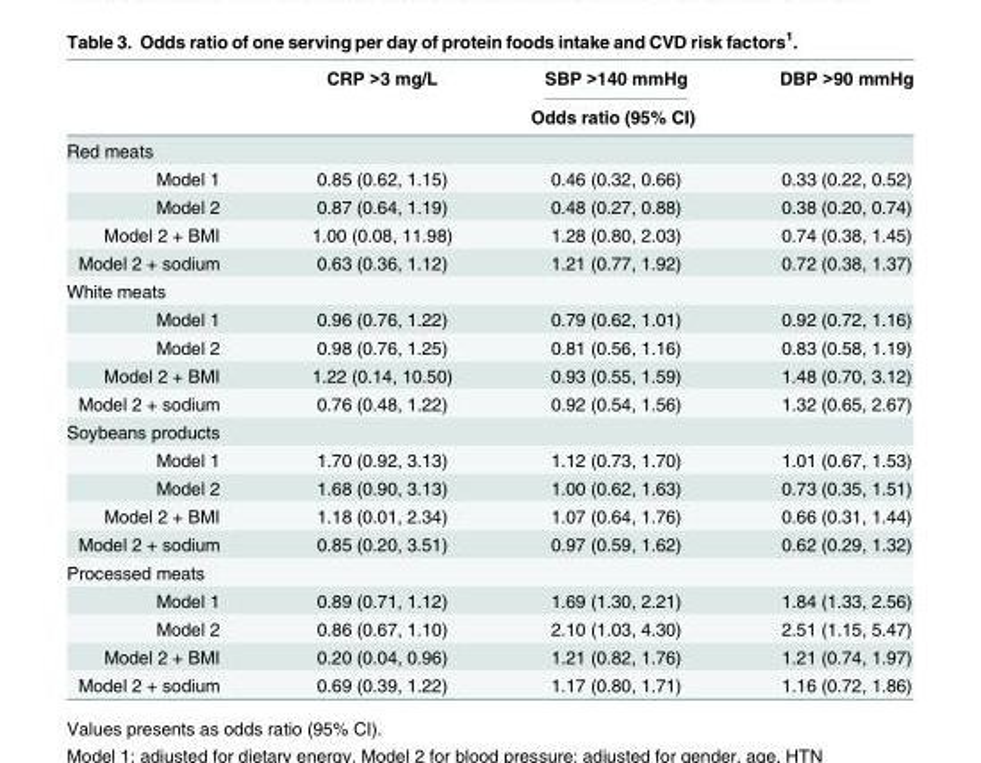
<table><thead><tr><td></td><td>CRP &gt;3 mg/L</td><td>SBP &gt;140 mmHg</td><td>DBP &gt;90 mmHg</td></tr></thead><tbody><tr><td></td><td colspan="3">Odds ratio (95% CI)</td></tr><tr><td colspan="4">Red meats</td></tr><tr><td>Model 1</td><td>0.85 (0.62, 1.15)</td><td>0.46 (0.32, 0.66)</td><td>0.33 (0.22, 0.52)</td></tr><tr><td>Model 2</td><td>0.87 (0.64, 1.19)</td><td>0.48 (0.27, 0.88)</td><td>0.38 (0.20, 0.74)</td></tr><tr><td>Model 2 + BMI</td><td>1.00 (0.08, 11.98)</td><td>1.28 (0.80, 2.03)</td><td>0.74 (0.38, 1.45)</td></tr><tr><td>Model 2 + sodium</td><td>0.63 (0.36, 1.12)</td><td>1.21 (0.77, 1.92)</td><td>0.72 (0.38, 1.37)</td></tr><tr><td colspan="4">White meats</td></tr><tr><td>Model 1</td><td>0.96 (0.76, 1.22)</td><td>0.79 (0.62, 1.01)</td><td>0.92 (0.72, 1.16)</td></tr><tr><td>Model 2</td><td>0.98 (0.76, 1.25)</td><td>0.81 (0.56, 1.16)</td><td>0.83 (0.58, 1.19)</td></tr><tr><td>Model 2 + BMI</td><td>1.22 (0.14, 10.50)</td><td>0.93 (0.55, 1.59)</td><td>1.48 (0.70, 3.12)</td></tr><tr><td>Model 2 + sodium</td><td>0.76 (0.48, 1.22)</td><td>0.92 (0.54, 1.56)</td><td>1.32 (0.65, 2.67)</td></tr><tr><td colspan="4">Soybeans products</td></tr><tr><td>Model 1</td><td>1.70 (0.92, 3.13)</td><td>1.12 (0.73, 1.70)</td><td>1.01 (0.67, 1.53)</td></tr><tr><td>Model 2</td><td>1.68 (0.90, 3.13)</td><td>1.00 (0.62, 1.63)</td><td>0.73 (0.35, 1.51)</td></tr><tr><td>Model 2 + BMI</td><td>1.18 (0.01, 2.34)</td><td>1.07 (0.64, 1.76)</td><td>0.66 (0.31, 1.44)</td></tr><tr><td>Model 2 + sodium</td><td>0.85 (0.20, 3.51)</td><td>0.97 (0.59, 1.62)</td><td>0.62 (0.29, 1.32)</td></tr><tr><td colspan="4">Processed meats</td></tr><tr><td>Model 1</td><td>0.89 (0.71, 1.12)</td><td>1.69 (1.30, 2.21)</td><td>1.84 (1.33, 2.56)</td></tr><tr><td>Model 2</td><td>0.86 (0.67, 1.10)</td><td>2.10 (1.03, 4.30)</td><td>2.51 (1.15, 5.47)</td></tr><tr><td>Model 2 + BMI</td><td>0.20 (0.04, 0.96)</td><td>1.21 (0.82, 1.76)</td><td>1.21 (0.74, 1.97)</td></tr><tr><td>Model 2 + sodium</td><td>0.69 (0.39, 1.22)</td><td>1.17 (0.80, 1.71)</td><td>1.16 (0.72, 1.86)</td></tr></tbody></table>